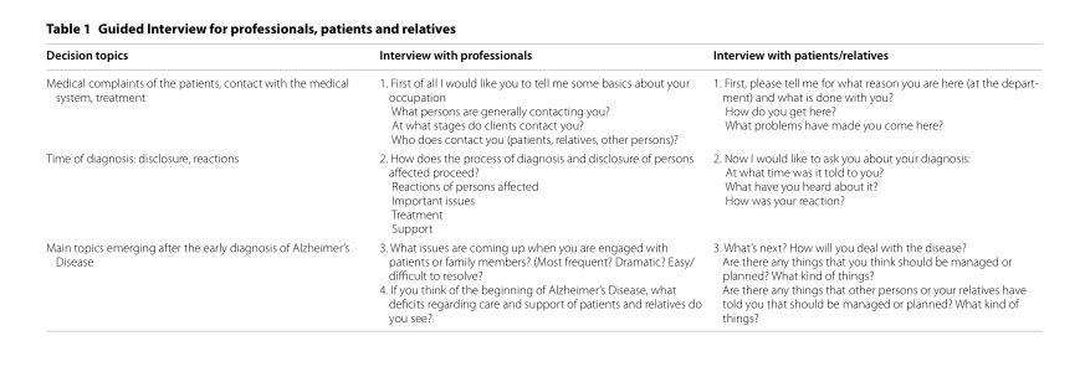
<table><thead><tr><td>Decision topics</td><td>Interview with professionals</td><td>Interview with patients/relatives</td></tr></thead><tbody><tr><td>Medical complaints of the patients, contact with the medical system, treatment</td><td>1. First of all I would like you to tell me some basics about your occupation What persons are generally contacting you? At what stages do clients contact you? Who does contact you (patients, relatives, other persons)?</td><td>1. First, please tell me for what reason you are here (at the depart- ment) and what is done with you? How do you get here? What problems have made you come here?</td></tr><tr><td>Time of diagnosis: disclosure, reactions</td><td>2. How does the process of diagnosis and disclosure of persons affected proceed? Reactions of persons affected Important issues Treatment Support</td><td>2. Now I would like to ask you about your diagnosis: At what time was it told to you? What have you heard about it? How was your reaction?</td></tr><tr><td>Main topics emerging after the early diagnosis of Alzheimer’s Disease</td><td>3. What issues are coming up when you are engaged with patients or family members? (Most frequent? Dramatic? Easy/ difficult to resolve? 4. If you think of the beginning of Alzheimer’s Disease, what deficits regarding care and support of patients and relatives do you see?</td><td>3. What’s next? How will you deal with the disease? Are there any things that you think should be managed or planned? What kind of things? Are there any things that other persons or your relatives have told you that should be managed or planned? What kind of things?</td></tr></tbody></table>